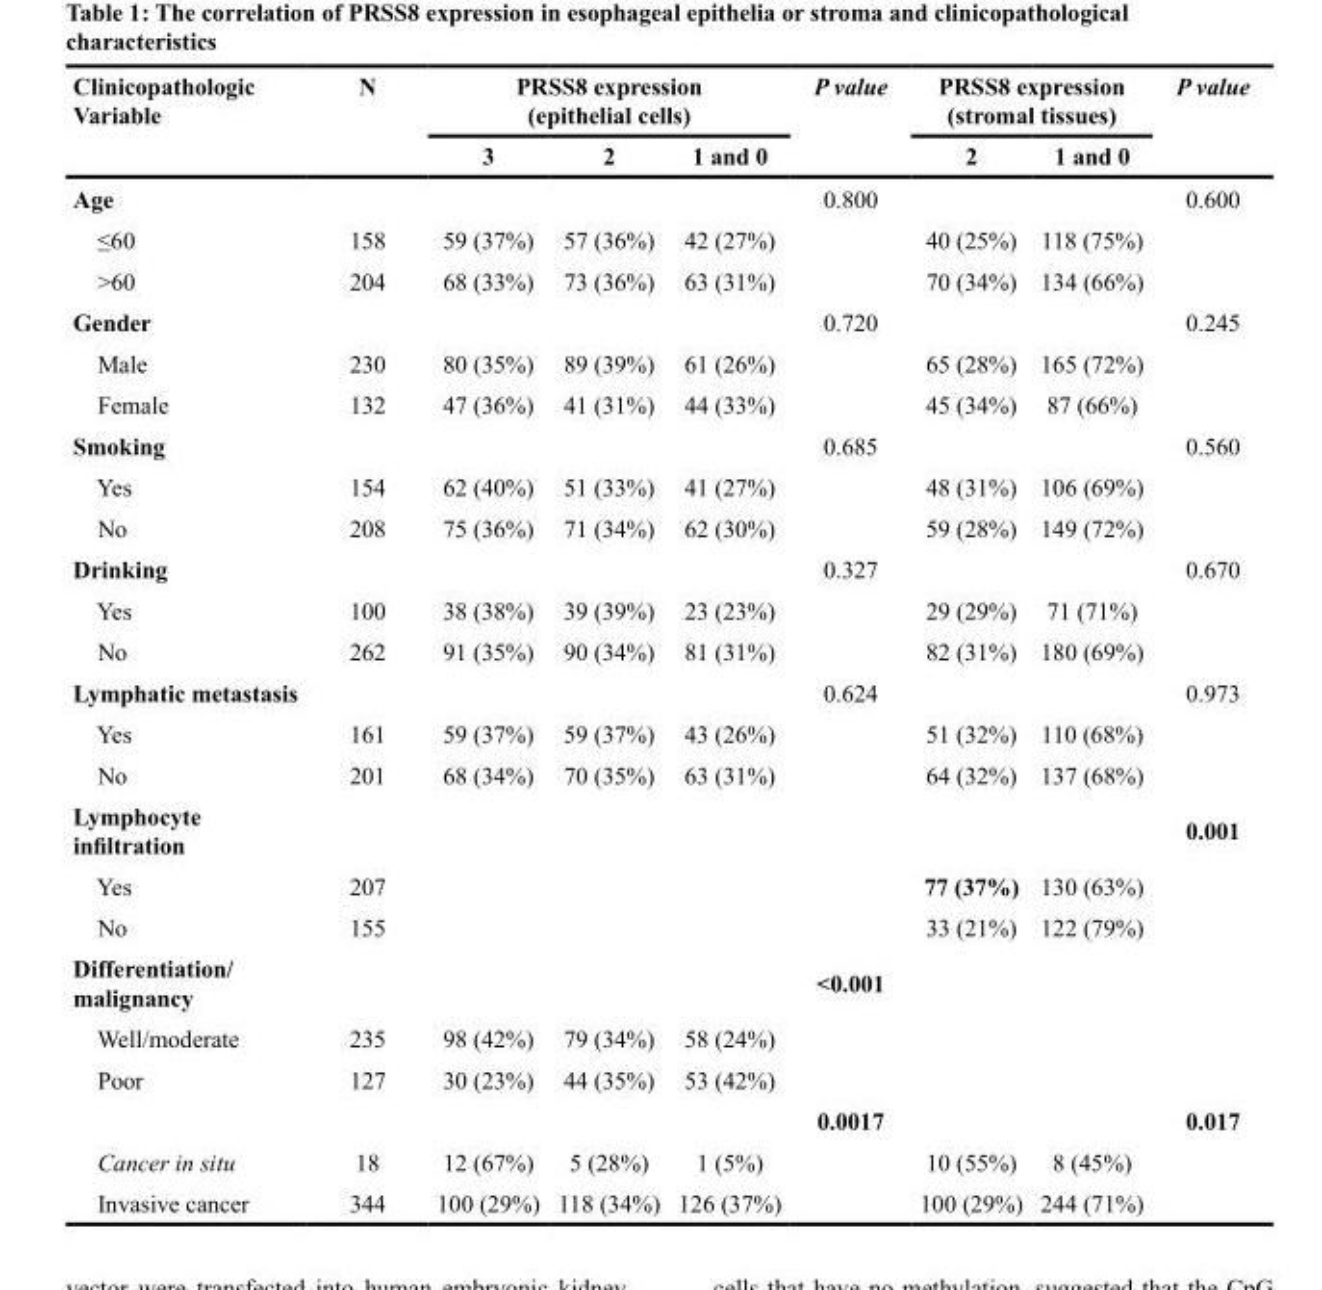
<table><thead><tr><td rowspan="2">Clinicopathologic Variable</td><td rowspan="2">N</td><td colspan="3">PRSS8 expression (epithelial cells)</td><td rowspan="2">P value</td><td colspan="2">PRSS8 expression (stromal tissues)</td><td rowspan="2">P value</td></tr><tr><td>3</td><td>2</td><td>1 and 0</td><td>2</td><td>1 and 0</td></tr></thead><tbody><tr><td>Age</td><td></td><td></td><td></td><td></td><td>0.800</td><td></td><td></td><td>0.600</td></tr><tr><td>≤60</td><td>158</td><td>59 (37%)</td><td>57 (36%)</td><td>42 (27%)</td><td></td><td>40 (25%)</td><td>118 (75%)</td><td></td></tr><tr><td>&gt;60</td><td>204</td><td>68 (33%)</td><td>73 (36%)</td><td>63 (31%)</td><td></td><td>70 (34%)</td><td>134 (66%)</td><td></td></tr><tr><td>Gender</td><td></td><td></td><td></td><td></td><td>0.720</td><td></td><td></td><td>0.245</td></tr><tr><td>Male</td><td>230</td><td>80 (35%)</td><td>89 (39%)</td><td>61 (26%)</td><td></td><td>65 (28%)</td><td>165 (72%)</td><td></td></tr><tr><td>Female</td><td>132</td><td>47 (36%)</td><td>41 (31%)</td><td>44 (33%)</td><td></td><td>45 (34%)</td><td>87 (66%)</td><td></td></tr><tr><td>Smoking</td><td></td><td></td><td></td><td></td><td>0.685</td><td></td><td></td><td>0.560</td></tr><tr><td>Yes</td><td>154</td><td>62 (40%)</td><td>51 (33%)</td><td>41 (27%)</td><td></td><td>48 (31%)</td><td>106 (69%)</td><td></td></tr><tr><td>No</td><td>208</td><td>75 (36%)</td><td>71 (34%)</td><td>62 (30%)</td><td></td><td>59 (28%)</td><td>149 (72%)</td><td></td></tr><tr><td>Drinking</td><td></td><td></td><td></td><td></td><td>0.327</td><td></td><td></td><td>0.670</td></tr><tr><td>Yes</td><td>100</td><td>38 (38%)</td><td>39 (39%)</td><td>23 (23%)</td><td></td><td>29 (29%)</td><td>71 (71%)</td><td></td></tr><tr><td>No</td><td>262</td><td>91 (35%)</td><td>90 (34%)</td><td>81 (31%)</td><td></td><td>82 (31%)</td><td>180 (69%)</td><td></td></tr><tr><td>Lymphatic metastasis</td><td></td><td></td><td></td><td></td><td>0.624</td><td></td><td></td><td>0.973</td></tr><tr><td>Yes</td><td>161</td><td>59 (37%)</td><td>59 (37%)</td><td>43 (26%)</td><td></td><td>51 (32%)</td><td>110 (68%)</td><td></td></tr><tr><td>No</td><td>201</td><td>68 (34%)</td><td>70 (35%)</td><td>63 (31%)</td><td></td><td>64 (32%)</td><td>137 (68%)</td><td></td></tr><tr><td>Lymphocyte infiltration</td><td></td><td></td><td></td><td></td><td></td><td></td><td></td><td>0.001</td></tr><tr><td>Yes</td><td>207</td><td></td><td></td><td></td><td></td><td>77 (37%)</td><td>130 (63%)</td><td></td></tr><tr><td>No</td><td>155</td><td></td><td></td><td></td><td></td><td>33 (21%)</td><td>122 (79%)</td><td></td></tr><tr><td>Differentiation/ malignancy</td><td></td><td></td><td></td><td></td><td>&lt;0.001</td><td></td><td></td><td></td></tr><tr><td>Well/moderate</td><td>235</td><td>98 (42%)</td><td>79 (34%)</td><td>58 (24%)</td><td></td><td></td><td></td><td></td></tr><tr><td rowspan="2">Poor</td><td>127</td><td>30 (23%)</td><td>44 (35%)</td><td>53 (42%)</td><td></td><td></td><td></td><td></td></tr><tr><td></td><td></td><td></td><td></td><td>0.0017</td><td></td><td></td><td>0.017</td></tr><tr><td>Cancer in situ</td><td>18</td><td>12 (67%)</td><td>5 (28%)</td><td>1 (5%)</td><td></td><td>10 (55%)</td><td>8 (45%)</td><td></td></tr><tr><td>Invasive cancer</td><td>344</td><td>100 (29%)</td><td>118 (34%)</td><td>126 (37%)</td><td></td><td>100 (29%)</td><td>244 (71%)</td><td></td></tr></tbody></table>